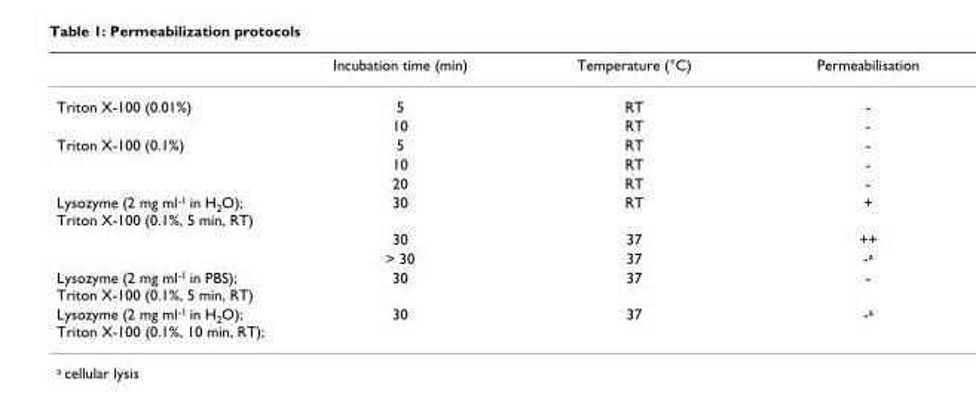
<table><thead><tr><td></td><td>Incubation time (min)</td><td>Temperature (°C)</td><td>Permeabilisation</td></tr></thead><tbody><tr><td rowspan="2">Triton X-100 (0.01%)</td><td>5</td><td>RT</td><td>-</td></tr><tr><td>10</td><td>RT</td><td>-</td></tr><tr><td rowspan="3">Triton X-100 (0.1%)</td><td>5</td><td>RT</td><td>-</td></tr><tr><td>10</td><td>RT</td><td>-</td></tr><tr><td>20</td><td>RT</td><td>-</td></tr><tr><td rowspan="3">Lysozyme (2 mg ml-1 in H2O); Triton X-100 (0.1%, 5 min, RT)</td><td>30</td><td>RT</td><td>+</td></tr><tr><td>30</td><td>37</td><td>++</td></tr><tr><td>&gt; 30</td><td>37</td><td>-a</td></tr><tr><td>Lysozyme (2 mg ml-1 in PBS); Triton X-100 (0.1%, 5 min, RT)</td><td>30</td><td>37</td><td>-</td></tr><tr><td>Lysozyme (2 mg ml-1 in H2O); Triton X-100 (0.1%, 10 min, RT);</td><td>30</td><td>37</td><td>-a</td></tr></tbody></table>